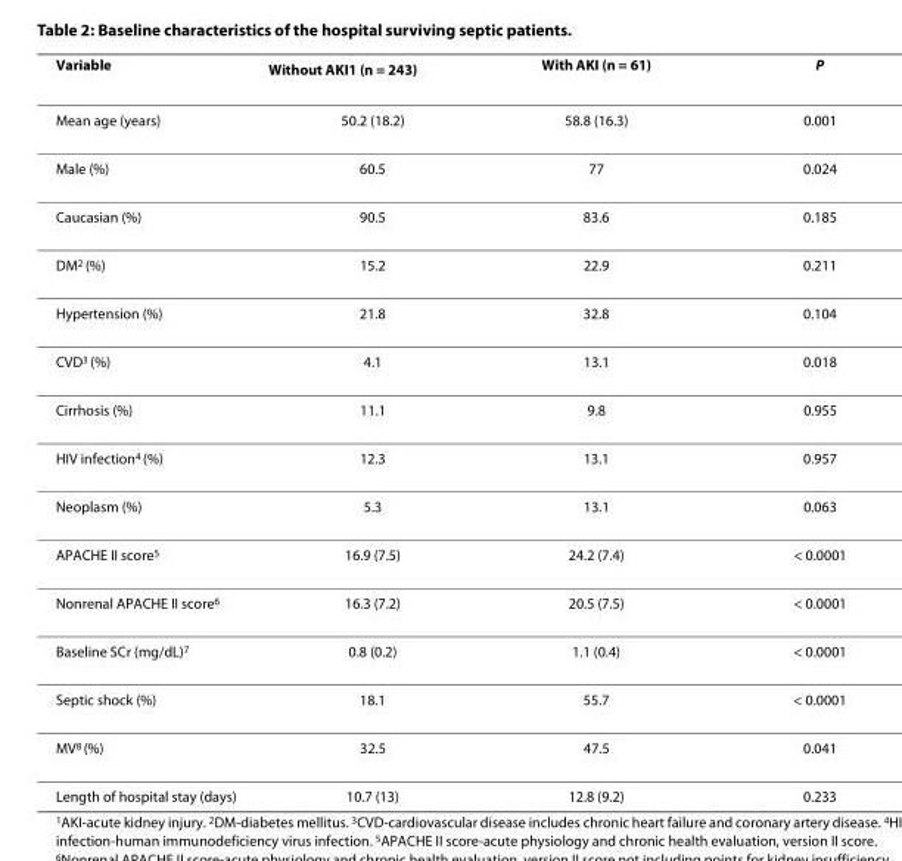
<table><thead><tr><td>Variable</td><td>Without AKI<sup>1</sup> (n = 243)</td><td>With AKI (n = 61)</td><td>P</td></tr></thead><tbody><tr><td>Mean age (years)</td><td>50.2 (18.2)</td><td>58.8 (16.3)</td><td>0.001</td></tr><tr><td>Male (%)</td><td>60.5</td><td>77</td><td>0.024</td></tr><tr><td>Caucasian (%)</td><td>90.5</td><td>83.6</td><td>0.185</td></tr><tr><td>DM<sup>2</sup> (%)</td><td>15.2</td><td>22.9</td><td>0.211</td></tr><tr><td>Hypertension (%)</td><td>21.8</td><td>32.8</td><td>0.104</td></tr><tr><td>CVD<sup>3</sup> (%)</td><td>4.1</td><td>13.1</td><td>0.018</td></tr><tr><td>Cirrhosis (%)</td><td>11.1</td><td>9.8</td><td>0.955</td></tr><tr><td>HIV infection<sup>4</sup> (%)</td><td>12.3</td><td>13.1</td><td>0.957</td></tr><tr><td>Neoplasm (%)</td><td>5.3</td><td>13.1</td><td>0.063</td></tr><tr><td>APACHE II score<sup>5</sup></td><td>16.9 (7.5)</td><td>24.2 (7.4)</td><td>&lt; 0.0001</td></tr><tr><td>Nonrenal APACHE II score<sup>6</sup></td><td>16.3 (7.2)</td><td>20.5 (7.5)</td><td>&lt; 0.0001</td></tr><tr><td>Baseline SCr (mg/dL)<sup>7</sup></td><td>0.8 (0.2)</td><td>1.1 (0.4)</td><td>&lt; 0.0001</td></tr><tr><td>Septic shock (%)</td><td>18.1</td><td>55.7</td><td>&lt; 0.0001</td></tr><tr><td>MV<sup>8</sup> (%)</td><td>32.5</td><td>47.5</td><td>0.041</td></tr><tr><td>Length of hospital stay (days)</td><td>10.7 (13)</td><td>12.8 (9.2)</td><td>0.233</td></tr></tbody></table>